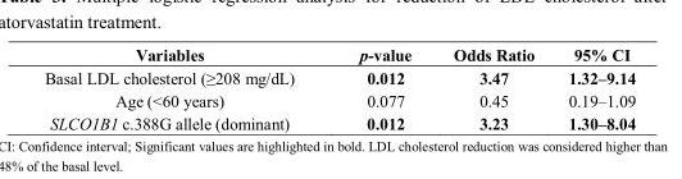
<table><thead><tr><td>Variables</td><td>p-value</td><td>Odds Ratio</td><td>95% CI</td></tr></thead><tbody><tr><td>Basal LDL cholesterol (≥208 mg/dL)</td><td>0.012</td><td>3.47</td><td>1.32–9.14</td></tr><tr><td>Age (&lt;60 years)</td><td>0.077</td><td>0.45</td><td>0.19–1.09</td></tr><tr><td>SLCO1B1 c.388G allele (dominant)</td><td>0.012</td><td>3.23</td><td>1.30–8.04</td></tr></tbody></table>